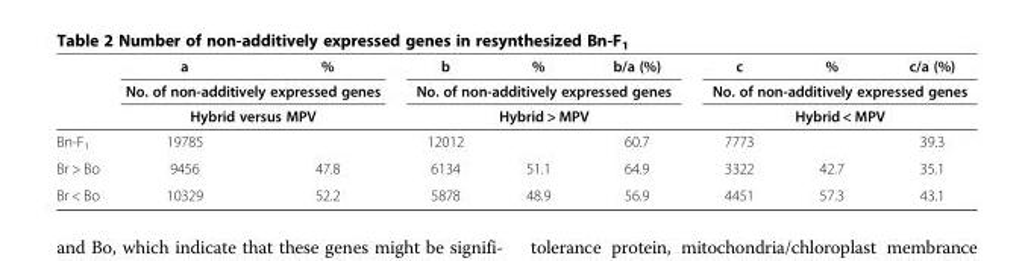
<table><thead><tr><td></td><td>a</td><td>%</td><td>b</td><td>%</td><td>b/a (%)</td><td>c</td><td>%</td><td>c/a (%)</td></tr></thead><tbody><tr><td rowspan="2"></td><td colspan="2">No. of non-additively expressed genes</td><td colspan="3">No. of non-additively expressed genes</td><td colspan="3">No. of non-additively expressed genes</td></tr><tr><td colspan="2">Hybrid versus MPV</td><td colspan="3">Hybrid &gt; MPV</td><td colspan="3">Hybrid &lt; MPV</td></tr><tr><td>Bn-F<sub>1</sub></td><td>19785</td><td></td><td>12012</td><td></td><td>60.7</td><td>7773</td><td></td><td>39.3</td></tr><tr><td>Br &gt; Bo</td><td>9456</td><td>47.8</td><td>6134</td><td>51.1</td><td>64.9</td><td>3322</td><td>42.7</td><td>35.1</td></tr><tr><td>Br &lt; Bo</td><td>10329</td><td>52.2</td><td>5878</td><td>48.9</td><td>56.9</td><td>4451</td><td>57.3</td><td>43.1</td></tr></tbody></table>